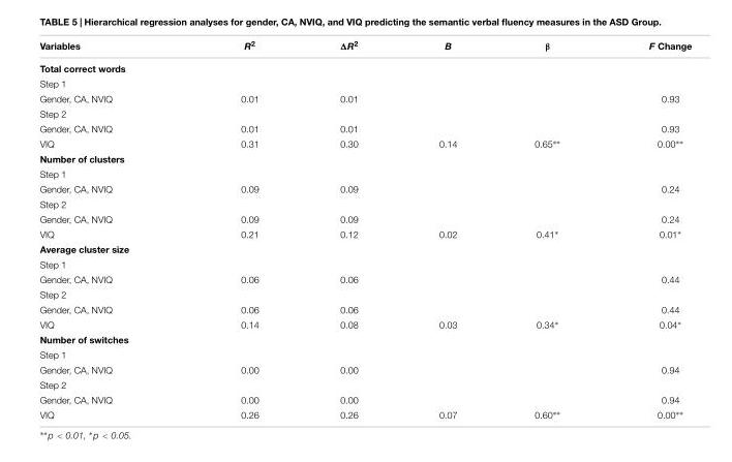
<table><thead><tr><td>Variables</td><td>R<sup>2</sup></td><td>ΔR<sup>2</sup></td><td>B</td><td>β</td><td>F Change</td></tr></thead><tbody><tr><td colspan="6">Total correct words</td></tr><tr><td colspan="6">Step 1</td></tr><tr><td>Gender, CA, NVIQ</td><td>0.01</td><td>0.01</td><td></td><td></td><td>0.93</td></tr><tr><td colspan="6">Step 2</td></tr><tr><td>Gender, CA, NVIQ</td><td>0.01</td><td>0.01</td><td></td><td></td><td>0.93</td></tr><tr><td>VIQ</td><td>0.31</td><td>0.30</td><td>0.14</td><td>0.65∗∗</td><td>0.00∗∗</td></tr><tr><td colspan="6">Number of clusters</td></tr><tr><td colspan="6">Step 1</td></tr><tr><td>Gender, CA, NVIQ</td><td>0.09</td><td>0.09</td><td></td><td></td><td>0.24</td></tr><tr><td colspan="6">Step 2</td></tr><tr><td>Gender, CA, NVIQ</td><td>0.09</td><td>0.09</td><td></td><td></td><td>0.24</td></tr><tr><td>VIQ</td><td>0.21</td><td>0.12</td><td>0.02</td><td>0.41∗</td><td>0.01∗</td></tr><tr><td colspan="6">Average cluster size</td></tr><tr><td colspan="6">Step 1</td></tr><tr><td>Gender, CA, NVIQ</td><td>0.06</td><td>0.06</td><td></td><td></td><td>0.44</td></tr><tr><td colspan="6">Step 2</td></tr><tr><td>Gender, CA, NVIQ</td><td>0.06</td><td>0.06</td><td></td><td></td><td>0.44</td></tr><tr><td>VIQ</td><td>0.14</td><td>0.08</td><td>0.03</td><td>0.34∗</td><td>0.04∗</td></tr><tr><td colspan="6">Number of switches</td></tr><tr><td colspan="6">Step 1</td></tr><tr><td>Gender, CA, NVIQ</td><td>0.00</td><td>0.00</td><td></td><td></td><td>0.94</td></tr><tr><td colspan="6">Step 2</td></tr><tr><td>Gender, CA, NVIQ</td><td>0.00</td><td>0.00</td><td></td><td></td><td>0.94</td></tr><tr><td>VIQ</td><td>0.26</td><td>0.26</td><td>0.07</td><td>0.60∗∗</td><td>0.00∗∗</td></tr></tbody></table>